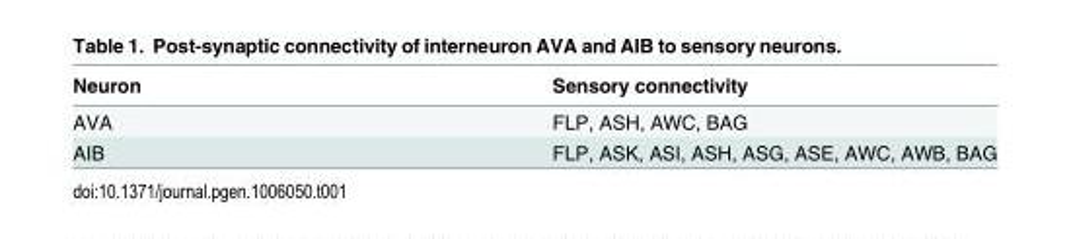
<table><thead><tr><td>Neuron</td><td>Sensory connectivity</td></tr></thead><tbody><tr><td>AVA</td><td>FLP, ASH, AWC, BAG</td></tr><tr><td>AIB</td><td>FLP, ASK, ASI, ASH, ASG, ASE, AWC, AWB, BAG</td></tr></tbody></table>